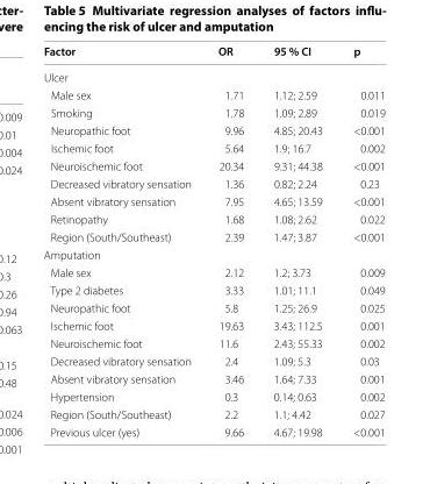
<table><thead><tr><td>Factor</td><td>OR</td><td>95 % CI</td><td>p</td></tr></thead><tbody><tr><td colspan="4">Ulcer</td></tr><tr><td>Male sex</td><td>1.71</td><td>1.12; 2.59</td><td>0.011</td></tr><tr><td>Smoking</td><td>1.78</td><td>1.09; 2.89</td><td>0.019</td></tr><tr><td>Neuropathic foot</td><td>9.96</td><td>4.85; 20.43</td><td>&lt;0.001</td></tr><tr><td>Ischemic foot</td><td>5.64</td><td>1.9; 16.7</td><td>0.002</td></tr><tr><td>Neuroischemic foot</td><td>20.34</td><td>9.31; 44.38</td><td>&lt;0.001</td></tr><tr><td>Decreased vibratory sensation</td><td>1.36</td><td>0.82; 2.24</td><td>0.23</td></tr><tr><td>Absent vibratory sensation</td><td>7.95</td><td>4.65; 13.59</td><td>&lt;0.001</td></tr><tr><td>Retinopathy</td><td>1.68</td><td>1.08; 2.62</td><td>0.022</td></tr><tr><td>Region (South/Southeast)</td><td>2.39</td><td>1.47; 3.87</td><td>&lt;0.001</td></tr><tr><td colspan="4">Amputation</td></tr><tr><td>Male sex</td><td>2.12</td><td>1.2; 3.73</td><td>0.009</td></tr><tr><td>Type 2 diabetes</td><td>3.33</td><td>1.01; 11.1</td><td>0.049</td></tr><tr><td>Neuropathic foot</td><td>5.8</td><td>1.25; 26.9</td><td>0.025</td></tr><tr><td>Ischemic foot</td><td>19.63</td><td>3.43; 112.5</td><td>0.001</td></tr><tr><td>Neuroischemic foot</td><td>11.6</td><td>2.43; 55.33</td><td>0.002</td></tr><tr><td>Decreased vibratory sensation</td><td>2.4</td><td>1.09; 5.3</td><td>0.03</td></tr><tr><td>Absent vibratory sensation</td><td>3.46</td><td>1.64; 7.33</td><td>0.001</td></tr><tr><td>Hypertension</td><td>0.3</td><td>0.14; 0.63</td><td>0.002</td></tr><tr><td>Region (South/Southeast)</td><td>2.2</td><td>1.1; 4.42</td><td>0.027</td></tr><tr><td>Previous ulcer (yes)</td><td>9.66</td><td>4.67; 19.98</td><td>&lt;0.001</td></tr></tbody></table>